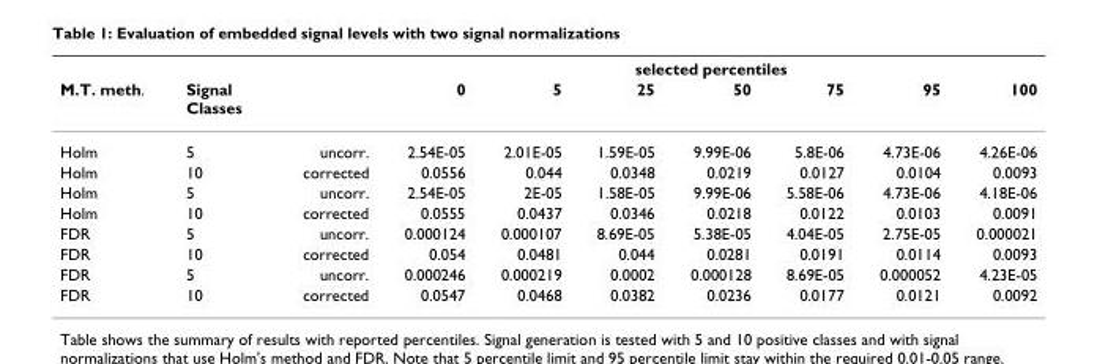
<table><thead><tr><td rowspan="2">M.T. meth.</td><td rowspan="2">Signal Classes</td><td rowspan="2"></td><td colspan="7">selected percentiles</td></tr><tr><td>0</td><td>5</td><td>25</td><td>50</td><td>75</td><td>95</td><td>100</td></tr></thead><tbody><tr><td>Holm</td><td>5</td><td>uncorr.</td><td>2.54E-05</td><td>2.01E-05</td><td>1.59E-05</td><td>9.99E-06</td><td>5.8E-06</td><td>4.73E-06</td><td>4.26E-06</td></tr><tr><td>Holm</td><td>10</td><td>corrected</td><td>0.0556</td><td>0.044</td><td>0.0348</td><td>0.0219</td><td>0.0127</td><td>0.0104</td><td>0.0093</td></tr><tr><td>Holm</td><td>5</td><td>uncorr.</td><td>2.54E-05</td><td>2E-05</td><td>1.58E-05</td><td>9.99E-06</td><td>5.58E-06</td><td>4.73E-06</td><td>4.18E-06</td></tr><tr><td>Holm</td><td>10</td><td>corrected</td><td>0.0555</td><td>0.0437</td><td>0.0346</td><td>0.0218</td><td>0.0122</td><td>0.0103</td><td>0.0091</td></tr><tr><td>FDR</td><td>5</td><td>uncorr.</td><td>0.000124</td><td>0.000107</td><td>8.69E-05</td><td>5.38E-05</td><td>4.04E-05</td><td>2.75E-05</td><td>0.000021</td></tr><tr><td>FDR</td><td>10</td><td>corrected</td><td>0.054</td><td>0.0481</td><td>0.044</td><td>0.0281</td><td>0.0191</td><td>0.0114</td><td>0.0093</td></tr><tr><td>FDR</td><td>5</td><td>uncorr.</td><td>0.000246</td><td>0.000219</td><td>0.0002</td><td>0.000128</td><td>8.69E-05</td><td>0.000052</td><td>4.23E-05</td></tr><tr><td>FDR</td><td>10</td><td>corrected</td><td>0.0547</td><td>0.0468</td><td>0.0382</td><td>0.0236</td><td>0.0177</td><td>0.0121</td><td>0.0092</td></tr></tbody></table>